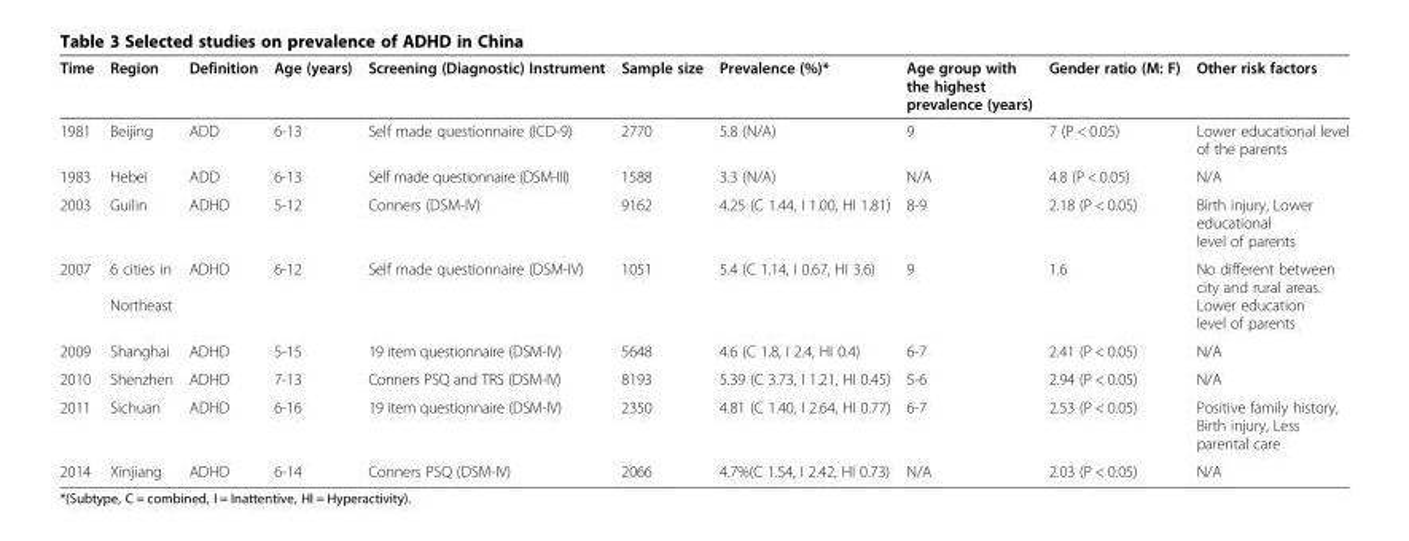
<table><thead><tr><td>Time</td><td>Region</td><td>Definition</td><td>Age (years)</td><td>Screening (Diagnostic) Instrument</td><td>Sample size</td><td>Prevalence (%)*</td><td>Age group with the highest prevalence (years)</td><td>Gender ratio (M: F)</td><td>Other risk factors</td></tr></thead><tbody><tr><td>1981</td><td>Beijing</td><td>ADD</td><td>6-13</td><td>Self made questionnaire (ICD-9)</td><td>2770</td><td>5.8 (N/A)</td><td>9</td><td>7 (P &lt; 0.05)</td><td>Lower educational level of the parents</td></tr><tr><td>1983</td><td>Hebei</td><td>ADD</td><td>6-13</td><td>Self made questionnaire (DSM-III)</td><td>1588</td><td>3.3 (N/A)</td><td>N/A</td><td>4.8 (P &lt; 0.05)</td><td>N/A</td></tr><tr><td>2003</td><td>Guilin</td><td>ADHD</td><td>5-12</td><td>Conners (DSM-IV)</td><td>9162</td><td>4.25 (C 1.44, I 1.00, HI 1.81)</td><td>8-9</td><td>2.18 (P &lt; 0.05)</td><td>Birth injury, Lower educational level of parents</td></tr><tr><td>2007</td><td>6 cities in Northeast</td><td>ADHD</td><td>6-12</td><td>Self made questionnaire (DSM-IV)</td><td>1051</td><td>5.4 (C 1.14, I 0.67, HI 3.6)</td><td>9</td><td>1.6</td><td>No different between city and rural areas. Lower education level of parents</td></tr><tr><td>2009</td><td>Shanghai</td><td>ADHD</td><td>5-15</td><td>19 item questionnaire (DSM-IV)</td><td>5648</td><td>4.6 (C 1.8, I 2.4, HI 0.4)</td><td>6-7</td><td>2.41 (P &lt; 0.05)</td><td>N/A</td></tr><tr><td>2010</td><td>Shenzhen</td><td>ADHD</td><td>7-13</td><td>Conners PSQ and TRS (DSM-IV)</td><td>8193</td><td>5.39 (C 3.73, I 1.21, HI 0.45)</td><td>5-6</td><td>2.94 (P &lt; 0.05)</td><td>N/A</td></tr><tr><td>2011</td><td>Sichuan</td><td>ADHD</td><td>6-16</td><td>19 item questionnaire (DSM-IV)</td><td>2350</td><td>4.81 (C 1.40, I 2.64, HI 0.77)</td><td>6-7</td><td>2.53 (P &lt; 0.05)</td><td>Positive family history, Birth injury, Less parental care</td></tr><tr><td>2014</td><td>Xinjiang</td><td>ADHD</td><td>6-14</td><td>Conners PSQ (DSM-IV)</td><td>2066</td><td>4.7%(C 1.54, I 2.42, HI 0.73)</td><td>N/A</td><td>2.03 (P &lt; 0.05)</td><td>N/A</td></tr></tbody></table>